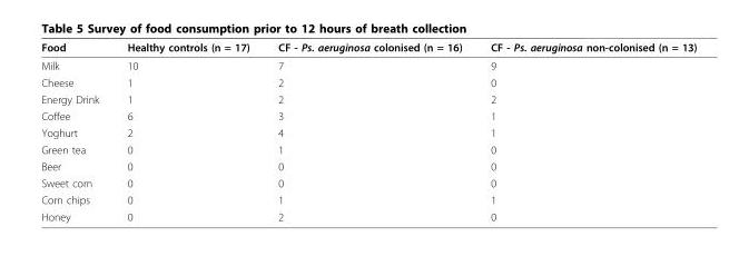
<table><thead><tr><td>Food</td><td>Healthy controls (n = 17)</td><td>CF - Ps. aeruginosa colonised (n = 16)</td><td>CF - Ps. aeruginosa non-colonised (n = 13)</td></tr></thead><tbody><tr><td>Milk</td><td>10</td><td>7</td><td>9</td></tr><tr><td>Cheese</td><td>1</td><td>2</td><td>0</td></tr><tr><td>Energy Drink</td><td>1</td><td>2</td><td>2</td></tr><tr><td>Coffee</td><td>6</td><td>3</td><td>1</td></tr><tr><td>Yoghurt</td><td>2</td><td>4</td><td>1</td></tr><tr><td>Green tea</td><td>0</td><td>1</td><td>0</td></tr><tr><td>Beer</td><td>0</td><td>0</td><td>0</td></tr><tr><td>Sweet corn</td><td>0</td><td>0</td><td>0</td></tr><tr><td>Corn chips</td><td>0</td><td>1</td><td>1</td></tr><tr><td>Honey</td><td>0</td><td>2</td><td>0</td></tr></tbody></table>